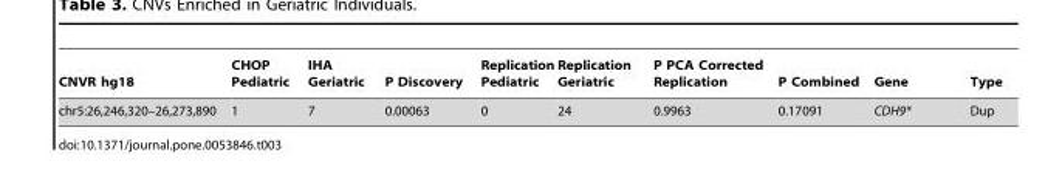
<table><thead><tr><td>CNVR hg18</td><td>CHOP Pediatric</td><td>IHA Geriatric</td><td>P Discovery</td><td>Replication Pediatric</td><td>Replication Geriatric</td><td>P PCA Corrected Replication</td><td>P Combined</td><td>Gene</td><td>Type</td></tr></thead><tbody><tr><td>chr5:26,246,320–26,273,890</td><td>1</td><td>7</td><td>0.00063</td><td>0</td><td>24</td><td>0.9963</td><td>0.17091</td><td>CDH9*</td><td>Dup</td></tr></tbody></table>